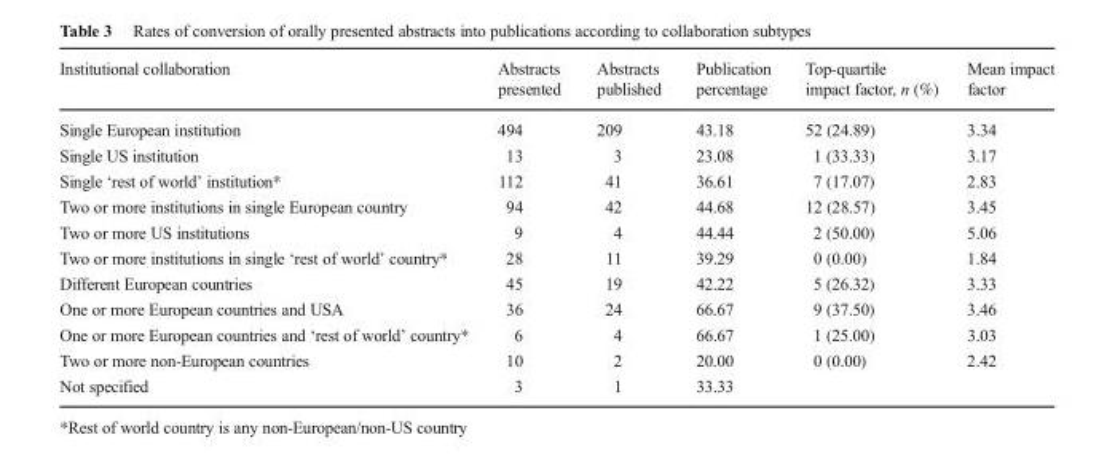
<table><thead><tr><td>Institutional collaboration</td><td>Abstracts presented</td><td>Abstracts published</td><td>Publication percentage</td><td>Top-quartile impact factor, n (%)</td><td>Mean impact factor</td></tr></thead><tbody><tr><td>Single European institution</td><td>494</td><td>209</td><td>43.18</td><td>52 (24.89)</td><td>3.34</td></tr><tr><td>Single US institution</td><td>13</td><td>3</td><td>23.08</td><td>1 (33.33)</td><td>3.17</td></tr><tr><td>Single ‘rest of world’ institution*</td><td>112</td><td>41</td><td>36.61</td><td>7 (17.07)</td><td>2.83</td></tr><tr><td>Two or more institutions in single European country</td><td>94</td><td>42</td><td>44.68</td><td>12 (28.57)</td><td>3.45</td></tr><tr><td>Two or more US institutions</td><td>9</td><td>4</td><td>44.44</td><td>2 (50.00)</td><td>5.06</td></tr><tr><td>Two or more institutions in single ‘rest of world’ country*</td><td>28</td><td>11</td><td>39.29</td><td>0 (0.00)</td><td>1.84</td></tr><tr><td>Different European countries</td><td>45</td><td>19</td><td>42.22</td><td>5 (26.32)</td><td>3.33</td></tr><tr><td>One or more European countries and USA</td><td>36</td><td>24</td><td>66.67</td><td>9 (37.50)</td><td>3.46</td></tr><tr><td>One or more European countries and ‘rest of world’ country*</td><td>6</td><td>4</td><td>66.67</td><td>1 (25.00)</td><td>3.03</td></tr><tr><td>Two or more non-European countries</td><td>10</td><td>2</td><td>20.00</td><td>0 (0.00)</td><td>2.42</td></tr><tr><td>Not specified</td><td>3</td><td>1</td><td>33.33</td><td></td><td></td></tr></tbody></table>